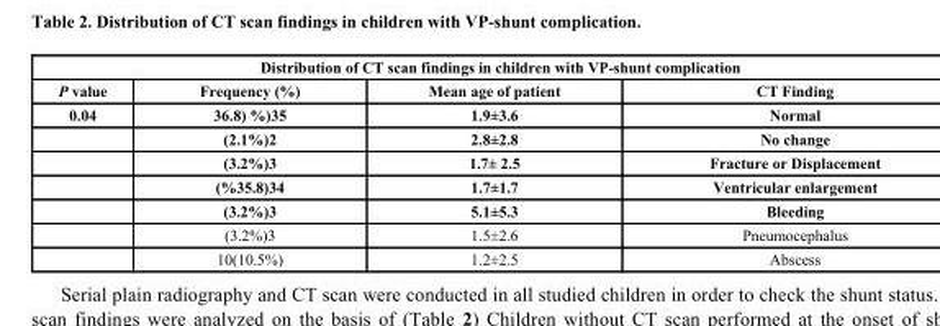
<table><thead><tr><td colspan="4">Distribution of CT scan findings in children with VP-shunt complication</td></tr><tr><td rowspan="6">P value 0.04</td><td rowspan="6">Frequency (%) 36.8) %)35 (2.1%)2 (3.2%)3 (%35.8)34 (3.2%)3</td><td rowspan="6">Mean age of patient 1.9±3.6 2.8±2.8 1.7± 2.5 1.7±1.7 5.1±5.3</td><td rowspan="6">CT Finding Normal No change Fracture or Displacement Ventricular enlargement Bleeding</td></tr><tr></tr><tr></tr><tr></tr><tr></tr><tr></tr></thead><tbody><tr><td></td><td>(3.2%)3</td><td>1.5±2.6</td><td>Pneumocephalus</td></tr><tr><td></td><td>10(10.5%)</td><td>1.2±2.5</td><td>Abscess</td></tr></tbody></table>